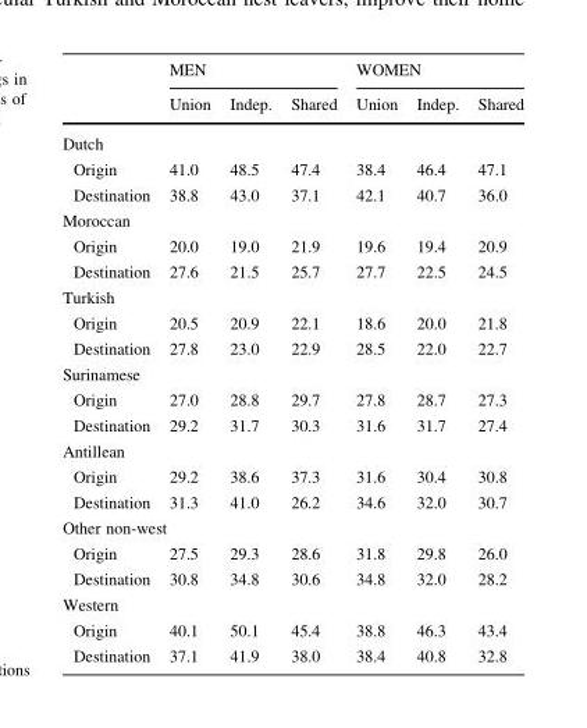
<table><thead><tr><td rowspan="2"></td><td colspan="3">MEN</td><td colspan="3">WOMEN</td></tr><tr><td>Union</td><td>Indep.</td><td>Shared</td><td>Union</td><td>Indep.</td><td>Shared</td></tr></thead><tbody><tr><td colspan="7">Dutch</td></tr><tr><td>Origin</td><td>41.0</td><td>48.5</td><td>47.4</td><td>38.4</td><td>46.4</td><td>47.1</td></tr><tr><td>Destination</td><td>38.8</td><td>43.0</td><td>37.1</td><td>42.1</td><td>40.7</td><td>36.0</td></tr><tr><td colspan="7">Moroccan</td></tr><tr><td>Origin</td><td>20.0</td><td>19.0</td><td>21.9</td><td>19.6</td><td>19.4</td><td>20.9</td></tr><tr><td>Destination</td><td>27.6</td><td>21.5</td><td>25.7</td><td>27.7</td><td>22.5</td><td>24.5</td></tr><tr><td colspan="7">Turkish</td></tr><tr><td>Origin</td><td>20.5</td><td>20.9</td><td>22.1</td><td>18.6</td><td>20.0</td><td>21.8</td></tr><tr><td>Destination</td><td>27.8</td><td>23.0</td><td>22.9</td><td>28.5</td><td>22.0</td><td>22.7</td></tr><tr><td colspan="7">Surinamese</td></tr><tr><td>Origin</td><td>27.0</td><td>28.8</td><td>29.7</td><td>27.8</td><td>28.7</td><td>27.3</td></tr><tr><td>Destination</td><td>29.2</td><td>31.7</td><td>30.3</td><td>31.6</td><td>31.7</td><td>27.4</td></tr><tr><td colspan="7">Antillean</td></tr><tr><td>Origin</td><td>29.2</td><td>38.6</td><td>37.3</td><td>31.6</td><td>30.4</td><td>30.8</td></tr><tr><td>Destination</td><td>31.3</td><td>41.0</td><td>26.2</td><td>34.6</td><td>32.0</td><td>30.7</td></tr><tr><td colspan="7">Other non-west</td></tr><tr><td>Origin</td><td>27.5</td><td>29.3</td><td>28.6</td><td>31.8</td><td>29.8</td><td>26.0</td></tr><tr><td>Destination</td><td>30.8</td><td>34.8</td><td>30.6</td><td>34.8</td><td>32.0</td><td>28.2</td></tr><tr><td colspan="7">Western</td></tr><tr><td>Origin</td><td>40.1</td><td>50.1</td><td>45.4</td><td>38.8</td><td>46.3</td><td>43.4</td></tr><tr><td>Destination</td><td>37.1</td><td>41.9</td><td>38.0</td><td>38.4</td><td>40.8</td><td>32.8</td></tr></tbody></table>